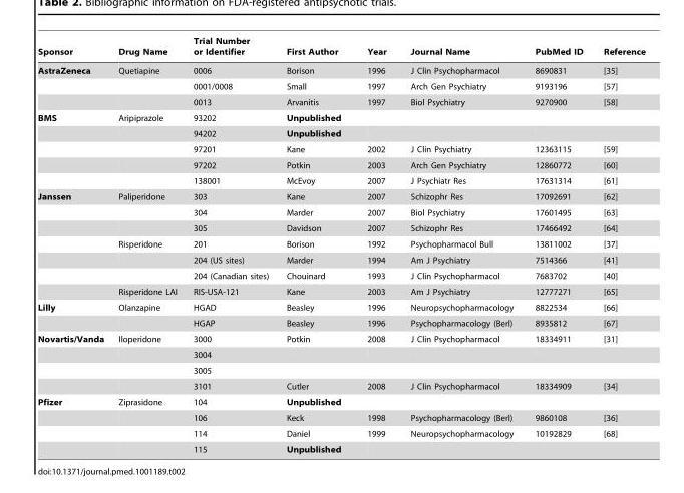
<table><thead><tr><td>Sponsor</td><td>Drug Name</td><td>Trial Number or Identifier</td><td>First Author</td><td>Year</td><td>Journal Name</td><td>PubMed ID</td><td>Reference</td></tr></thead><tbody><tr><td rowspan="3">AstraZeneca</td><td>Quetiapine</td><td>0006</td><td>Borison</td><td>1996</td><td>J Clin Psychopharmacol</td><td>8690831</td><td>[35]</td></tr><tr><td></td><td>0001/0008</td><td>Small</td><td>1997</td><td>Arch Gen Psychiatry</td><td>9193196</td><td>[57]</td></tr><tr><td></td><td>0013</td><td>Arvanitis</td><td>1997</td><td>Biol Psychiatry</td><td>9270900</td><td>[58]</td></tr><tr><td rowspan="5">BMS</td><td>Aripiprazole</td><td>93202</td><td>Unpublished</td><td></td><td></td><td></td><td></td></tr><tr><td></td><td>94202</td><td>Unpublished</td><td></td><td></td><td></td><td></td></tr><tr><td></td><td>97201</td><td>Kane</td><td>2002</td><td>J Clin Psychiatry</td><td>12363115</td><td>[59]</td></tr><tr><td></td><td>97202</td><td>Potkin</td><td>2003</td><td>Arch Gen Psychiatry</td><td>12860772</td><td>[60]</td></tr><tr><td></td><td>138001</td><td>McEvoy</td><td>2007</td><td>J Psychiatr Res</td><td>17631314</td><td>[61]</td></tr><tr><td rowspan="7">Janssen</td><td>Paliperidone</td><td>303</td><td>Kane</td><td>2007</td><td>Schizophr Res</td><td>17092691</td><td>[62]</td></tr><tr><td></td><td>304</td><td>Marder</td><td>2007</td><td>Biol Psychiatry</td><td>17601495</td><td>[63]</td></tr><tr><td></td><td>305</td><td>Davidson</td><td>2007</td><td>Schizophr Res</td><td>17466492</td><td>[64]</td></tr><tr><td>Risperidone</td><td>201</td><td>Borison</td><td>1992</td><td>Psychopharmacol Bull</td><td>13811002</td><td>[37]</td></tr><tr><td></td><td>204 (US sites)</td><td>Marder</td><td>1994</td><td>Am J Psychiatry</td><td>7514366</td><td>[41]</td></tr><tr><td></td><td>204 (Canadian sites)</td><td>Chouinard</td><td>1993</td><td>J Clin Psychopharmacol</td><td>7683702</td><td>[40]</td></tr><tr><td>Risperidone LAI</td><td>RIS-USA-121</td><td>Kane</td><td>2003</td><td>Am J Psychiatry</td><td>12777271</td><td>[65]</td></tr><tr><td rowspan="2">Lilly</td><td>Olanzapine</td><td>HGAD</td><td>Beasley</td><td>1996</td><td>Neuropsychopharmacology</td><td>8822534</td><td>[66]</td></tr><tr><td></td><td>HGAP</td><td>Beasley</td><td>1996</td><td>Psychopharmacology (Berl)</td><td>8935812</td><td>[67]</td></tr><tr><td rowspan="4">Novartis/Vanda</td><td>Iloperidone</td><td>3000</td><td>Potkin</td><td>2008</td><td>J Clin Psychopharmacol</td><td>18334911</td><td>[31]</td></tr><tr><td></td><td>3004</td><td></td><td></td><td></td><td></td><td></td></tr><tr><td></td><td>3005</td><td></td><td></td><td></td><td></td><td></td></tr><tr><td></td><td>3101</td><td>Cutler</td><td>2008</td><td>J Clin Psychopharmacol</td><td>18334909</td><td>[34]</td></tr><tr><td rowspan="4">Pfizer</td><td>Ziprasidone</td><td>104</td><td>Unpublished</td><td></td><td></td><td></td><td></td></tr><tr><td></td><td>106</td><td>Keck</td><td>1998</td><td>Psychopharmacology (Berl)</td><td>9860108</td><td>[36]</td></tr><tr><td></td><td>114</td><td>Daniel</td><td>1999</td><td>Neuropsychopharmacology</td><td>10192829</td><td>[68]</td></tr><tr><td></td><td>115</td><td>Unpublished</td><td></td><td></td><td></td><td></td></tr></tbody></table>